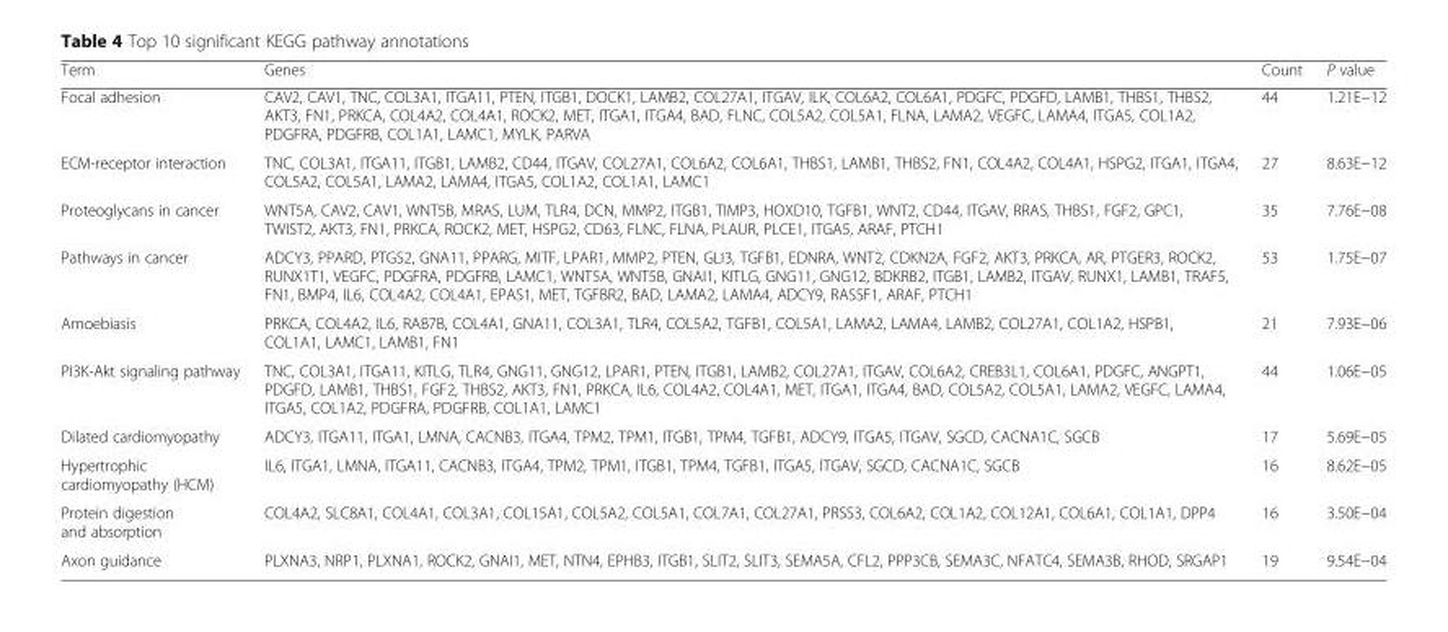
<table><thead><tr><td>Term</td><td>Genes</td><td>Count</td><td>P value</td></tr></thead><tbody><tr><td>Focal adhesion</td><td>CAV2, CAV1, TNC, COL3A1, ITGA11, PTEN, ITGB1, DOCK1, LAMB2, COL27A1, ITGAV, ILK, COL6A2, COL6A1, PDGFC, PDGFD, LAMB1, THBS1, THBS2, AKT3, FN1, PRKCA, COL4A2, COL4A1, ROCK2, MET, ITGA1, ITGA4, BAD, FLNC, COL5A2, COL5A1, FLNA, LAMA2, VEGFC, LAMA4, ITGA5, COL1A2, PDGFRA, PDGFRB, COL1A1, LAMC1, MYLK, PARVA</td><td>44</td><td>1.21E−12</td></tr><tr><td>ECM-receptor interaction</td><td>TNC, COL3A1, ITGA11, ITGB1, LAMB2, CD44, ITGAV, COL27A1, COL6A2, COL6A1, THBS1, LAMB1, THBS2, FN1, COL4A2, COL4A1, HSPG2, ITGA1, ITGA4, COL5A2, COL5A1, LAMA2, LAMA4, ITGA5, COL1A2, COL1A1, LAMC1</td><td>27</td><td>8.63E−12</td></tr><tr><td>Proteoglycans in cancer</td><td>WNT5A, CAV2, CAV1, WNT5B, MRAS, LUM, TLR4, DCN, MMP2, ITGB1, TIMP3, HOXD10, TGFB1, WNT2, CD44, ITGAV, RRAS, THBS1, FGF2, GPC1, TWIST2, AKT3, FN1, PRKCA, ROCK2, MET, HSPG2, CD63, FLNC, FLNA, PLAUR, PLCE1, ITGA5, ARAF, PTCH1</td><td>35</td><td>7.76E−08</td></tr><tr><td>Pathways in cancer</td><td>ADCY3, PPARD, PTGS2, GNA11, PPARG, MITF, LPAR1, MMP2, PTEN, GLI3, TGFB1, EDNRA, WNT2, CDKN2A, FGF2, AKT3, PRKCA, AR, PTGER3, ROCK2, RUNX1T1, VEGFC, PDGFRA, PDGFRB, LAMC1, WNT5A, WNT5B, GNAI1, KITLG, GNG11, GNG12, BDKRB2, ITGB1, LAMB2, ITGAV, RUNX1, LAMB1, TRAF5, FN1, BMP4, IL6, COL4A2, COL4A1, EPAS1, MET, TGFBR2, BAD, LAMA2, LAMA4, ADCY9, RASSF1, ARAF, PTCH1</td><td>53</td><td>1.75E−07</td></tr><tr><td>Amoebiasis</td><td>PRKCA, COL4A2, IL6, RAB7B, COL4A1, GNA11, COL3A1, TLR4, COL5A2, TGFB1, COL5A1, LAMA2, LAMA4, LAMB2, COL27A1, COL1A2, HSPB1, COL1A1, LAMC1, LAMB1, FN1</td><td>21</td><td>7.93E−06</td></tr><tr><td>PI3K-Akt signaling pathway</td><td>TNC, COL3A1, ITGA11, KITLG, TLR4, GNG11, GNG12, LPAR1, PTEN, ITGB1, LAMB2, COL27A1, ITGAV, COL6A2, CREB3L1, COL6A1, PDGFC, ANGPT1, PDGFD, LAMB1, THBS1, FGF2, THBS2, AKT3, FN1, PRKCA, IL6, COL4A2, COL4A1, MET, ITGA1, ITGA4, BAD, COL5A2, COL5A1, LAMA2, VEGFC, LAMA4, ITGA5, COL1A2, PDGFRA, PDGFRB, COL1A1, LAMC1</td><td>44</td><td>1.06E−05</td></tr><tr><td>Dilated cardiomyopathy</td><td>ADCY3, ITGA11, ITGA1, LMNA, CACNB3, ITGA4, TPM2, TPM1, ITGB1, TPM4, TGFB1, ADCY9, ITGA5, ITGAV, SGCD, CACNA1C, SGCB</td><td>17</td><td>5.69E−05</td></tr><tr><td>Hypertrophic cardiomyopathy (HCM)</td><td>IL6, ITGA1, LMNA, ITGA11, CACNB3, ITGA4, TPM2, TPM1, ITGB1, TPM4, TGFB1, ITGA5, ITGAV, SGCD, CACNA1C, SGCB</td><td>16</td><td>8.62E−05</td></tr><tr><td>Protein digestion and absorption</td><td>COL4A2, SLC8A1, COL4A1, COL3A1, COL15A1, COL5A2, COL5A1, COL7A1, COL27A1, PRSS3, COL6A2, COL1A2, COL12A1, COL6A1, COL1A1, DPP4</td><td>16</td><td>3.50E−04</td></tr><tr><td>Axon guidance</td><td>PLXNA3, NRP1, PLXNA1, ROCK2, GNAI1, MET, NTN4, EPHB3, ITGB1, SLIT2, SLIT3, SEMA5A, CFL2, PPP3CB, SEMA3C, NFATC4, SEMA3B, RHOD, SRGAP1</td><td>19</td><td>9.54E−04</td></tr></tbody></table>